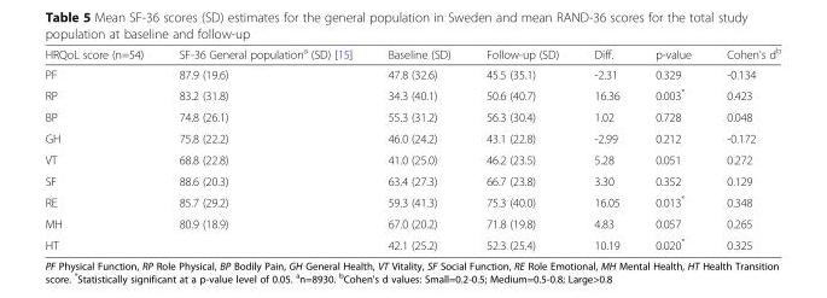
<table><thead><tr><td>HRQoL score (n=54)</td><td>SF-36 General population<sup>a</sup> (SD) [15]</td><td>Baseline (SD)</td><td>Follow-up (SD)</td><td>Diff.</td><td>p-value</td><td>Cohen&#x27;s d<sup>b</sup></td></tr></thead><tbody><tr><td>PF</td><td>87.9 (19.6)</td><td>47.8 (32.6)</td><td>45.5 (35.1)</td><td>-2.31</td><td>0.329</td><td>-0.134</td></tr><tr><td>RP</td><td>83.2 (31.8)</td><td>34.3 (40.1)</td><td>50.6 (40.7)</td><td>16.36</td><td>0.003*</td><td>0.423</td></tr><tr><td>BP</td><td>74.8 (26.1)</td><td>55.3 (31.2)</td><td>56.3 (30.4)</td><td>1.02</td><td>0.728</td><td>0.048</td></tr><tr><td>GH</td><td>75.8 (22.2)</td><td>46.0 (24.2)</td><td>43.1 (22.8)</td><td>-2.99</td><td>0.212</td><td>-0.172</td></tr><tr><td>VT</td><td>68.8 (22.8)</td><td>41.0 (25.0)</td><td>46.2 (23.5)</td><td>5.28</td><td>0.051</td><td>0.272</td></tr><tr><td>SF</td><td>88.6 (20.3)</td><td>63.4 (27.3)</td><td>66.7 (23.8)</td><td>3.30</td><td>0.352</td><td>0.129</td></tr><tr><td>RE</td><td>85.7 (29.2)</td><td>59.3 (41.3)</td><td>75.3 (40.0)</td><td>16.05</td><td>0.013*</td><td>0.348</td></tr><tr><td>MH</td><td>80.9 (18.9)</td><td>67.0 (20.2)</td><td>71.8 (19.8)</td><td>4.83</td><td>0.057</td><td>0.265</td></tr><tr><td>HT</td><td></td><td>42.1 (25.2)</td><td>52.3 (25.4)</td><td>10.19</td><td>0.020*</td><td>0.325</td></tr></tbody></table>